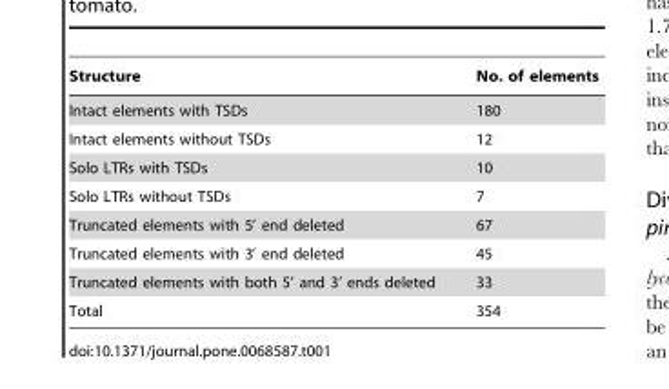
<table><thead><tr><td>Structure</td><td>No. of elements</td></tr></thead><tbody><tr><td>Intact elements with TSDs</td><td>180</td></tr><tr><td>Intact elements without TSDs</td><td>12</td></tr><tr><td>Solo LTRs with TSDs</td><td>10</td></tr><tr><td>Solo LTRs without TSDs</td><td>7</td></tr><tr><td>Truncated elements with 5’ end deleted</td><td>67</td></tr><tr><td>Truncated elements with 3’ end deleted</td><td>45</td></tr><tr><td>Truncated elements with both 5’ and 3’ ends deleted</td><td>33</td></tr><tr><td>Total</td><td>354</td></tr></tbody></table>